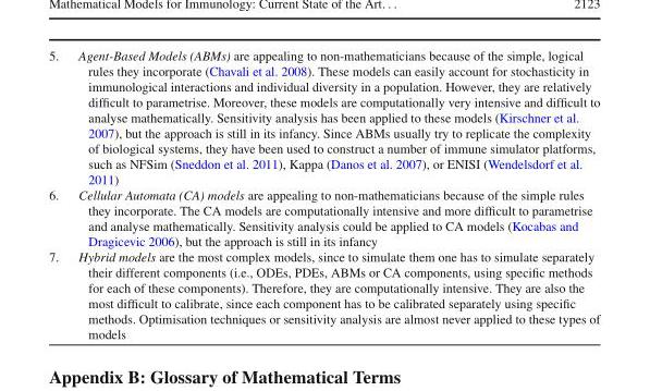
<table><tbody><tr><td>5.</td><td>Agent-Based Models (ABMs) are appealing to non-mathematicians because of the simple, logical rules they incorporate (Chavali et al. 2008). These models can easily account for stochasticity in immunological interactions and individual diversity in a population. However, they are relatively difficult to parametrise. Moreover, these models are computationally very intensive and difficult to analyse mathematically. Sensitivity analysis has been applied to these models (Kirschner et al. 2007), but the approach is still in its infancy. Since ABMs usually try to replicate the complexity of biological systems, they have been used to construct a number of immune simulator platforms, such as NFSim (Sneddon et al. 2011), Kappa (Danos et al. 2007), or ENISI (Wendelsdorf et al. 2011)</td></tr><tr><td>6.</td><td>Cellular Automata (CA) models are appealing to non-mathematicians because of the simple rules they incorporate. The CA models are computationally intensive and more difficult to parametrise and analyse mathematically. Sensitivity analysis could be applied to CA models (Kocabas and Dragicevic 2006), but the approach is still in its infancy</td></tr><tr><td>7.</td><td>Hybrid models are the most complex models, since to simulate them one has to simulate separately their different components (i.e., ODEs, PDEs, ABMs or CA components, using specific methods for each of these components). Therefore, they are computationally intensive. They are also the most difficult to calibrate, since each component has to be calibrated separately using specific methods. Optimisation techniques or sensitivity analysis are almost never applied to these types of models</td></tr></tbody></table>